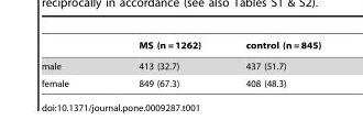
<table><thead><tr><td></td><td>MS (n = 1262)</td><td>control (n = 845)</td></tr></thead><tbody><tr><td>male</td><td>413 (32.7)</td><td>437 (51.7)</td></tr><tr><td>female</td><td>849 (67.3)</td><td>408 (48.3)</td></tr></tbody></table>